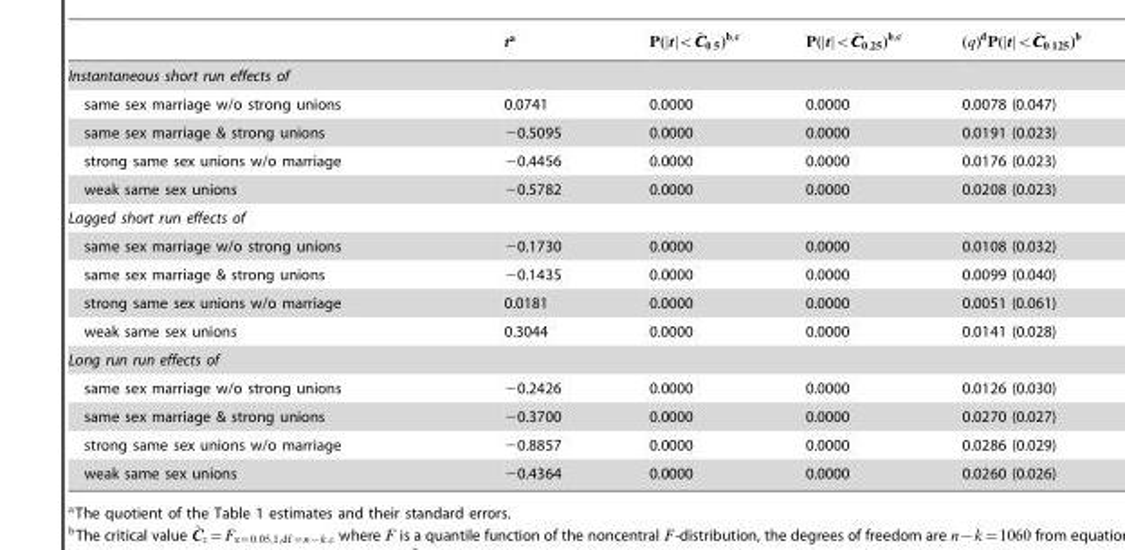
<table><tbody><tr><td colspan="5">Instantaneous short run effects of</td></tr><tr><td>same sex marriage w/o strong unions</td><td>0.0741</td><td>0.0000</td><td>0.0000</td><td>0.0078 (0.047)</td></tr><tr><td>same sex marriage &amp; strong unions</td><td>−0.5095</td><td>0.0000</td><td>0.0000</td><td>0.0191 (0.023)</td></tr><tr><td>strong same sex unions w/o marriage</td><td>−0.4456</td><td>0.0000</td><td>0.0000</td><td>0.0176 (0.023)</td></tr><tr><td>weak same sex unions</td><td>−0.5782</td><td>0.0000</td><td>0.0000</td><td>0.0208 (0.023)</td></tr><tr><td colspan="5">Lagged short run effects of</td></tr><tr><td>same sex marriage w/o strong unions</td><td>−0.1730</td><td>0.0000</td><td>0.0000</td><td>0.0108 (0.032)</td></tr><tr><td>same sex marriage &amp; strong unions</td><td>−0.1435</td><td>0.0000</td><td>0.0000</td><td>0.0099 (0.040)</td></tr><tr><td>strong same sex unions w/o marriage</td><td>0.0181</td><td>0.0000</td><td>0.0000</td><td>0.0051 (0.061)</td></tr><tr><td>weak same sex unions</td><td>0.3044</td><td>0.0000</td><td>0.0000</td><td>0.0141 (0.028)</td></tr><tr><td colspan="5">Long run run effects of</td></tr><tr><td>same sex marriage w/o strong unions</td><td>−0.2426</td><td>0.0000</td><td>0.0000</td><td>0.0126 (0.030)</td></tr><tr><td>same sex marriage &amp; strong unions</td><td>−0.3700</td><td>0.0000</td><td>0.0000</td><td>0.0270 (0.027)</td></tr><tr><td>strong same sex unions w/o marriage</td><td>−0.8857</td><td>0.0000</td><td>0.0000</td><td>0.0286 (0.029)</td></tr><tr><td>weak same sex unions</td><td>−0.4364</td><td>0.0000</td><td>0.0000</td><td>0.0260 (0.026)</td></tr></tbody></table>